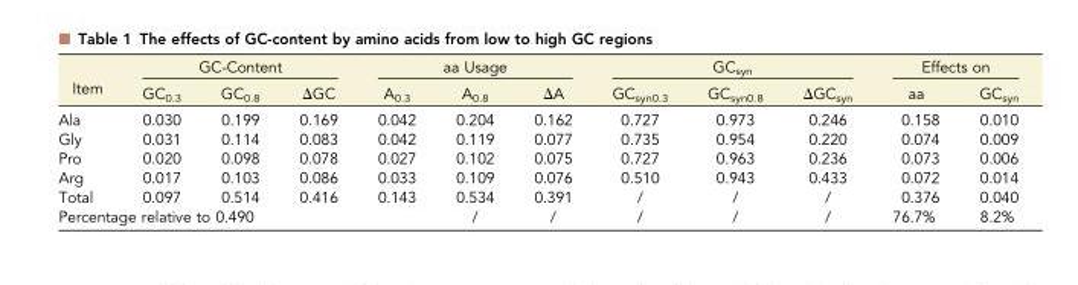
<table><thead><tr><td rowspan="2">Item</td><td colspan="3">GC-Content</td><td colspan="3">aa Usage</td><td colspan="3">GC<sub>syn</sub></td><td colspan="2">Effects on</td></tr><tr><td>GC<sub>0.3</sub></td><td>GC<sub>0.8</sub></td><td>ΔGC</td><td>A<sub>0.3</sub></td><td>A<sub>0.8</sub></td><td>ΔA</td><td>GC<sub>syn0.3</sub></td><td>GC<sub>syn0.8</sub></td><td>ΔGC<sub>syn</sub></td><td>aa</td><td>GC<sub>syn</sub></td></tr></thead><tbody><tr><td>Ala</td><td>0.030</td><td>0.199</td><td>0.169</td><td>0.042</td><td>0.204</td><td>0.162</td><td>0.727</td><td>0.973</td><td>0.246</td><td>0.158</td><td>0.010</td></tr><tr><td>Gly</td><td>0.031</td><td>0.114</td><td>0.083</td><td>0.042</td><td>0.119</td><td>0.077</td><td>0.735</td><td>0.954</td><td>0.220</td><td>0.074</td><td>0.009</td></tr><tr><td>Pro</td><td>0.020</td><td>0.098</td><td>0.078</td><td>0.027</td><td>0.102</td><td>0.075</td><td>0.727</td><td>0.963</td><td>0.236</td><td>0.073</td><td>0.006</td></tr><tr><td>Arg</td><td>0.017</td><td>0.103</td><td>0.086</td><td>0.033</td><td>0.109</td><td>0.076</td><td>0.510</td><td>0.943</td><td>0.433</td><td>0.072</td><td>0.014</td></tr><tr><td>Total</td><td>0.097</td><td>0.514</td><td>0.416</td><td>0.143</td><td>0.534</td><td>0.391</td><td>/</td><td>/</td><td>/</td><td>0.376</td><td>0.040</td></tr><tr><td colspan="5">Percentage relative to 0.490</td><td>/</td><td>/</td><td>/</td><td>/</td><td>/</td><td>76.7%</td><td>8.2%</td></tr></tbody></table>